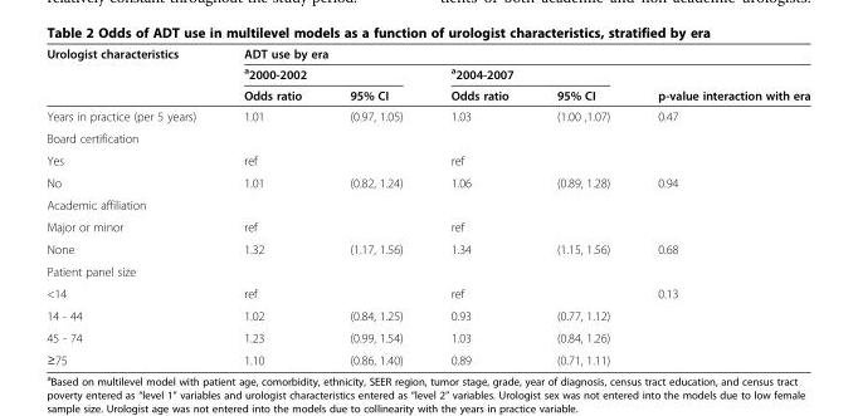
<table><thead><tr><td rowspan="3">Urologist characteristics</td><td colspan="5">ADT use by era</td></tr><tr><td colspan="2"><sup>a</sup>2000-2002</td><td colspan="2"><sup>a</sup>2004-2007</td><td rowspan="2">p-value interaction with era</td></tr><tr><td>Odds ratio</td><td>95% CI</td><td>Odds ratio</td><td>95% CI</td></tr></thead><tbody><tr><td>Years in practice (per 5 years)</td><td>1.01</td><td>(0.97, 1.05)</td><td>1.03</td><td>(1.00 ,1.07)</td><td>0.47</td></tr><tr><td colspan="6">Board certification</td></tr><tr><td>Yes</td><td>ref</td><td></td><td>ref</td><td></td><td></td></tr><tr><td>No</td><td>1.01</td><td>(0.82, 1.24)</td><td>1.06</td><td>(0.89, 1.28)</td><td>0.94</td></tr><tr><td colspan="6">Academic affiliation</td></tr><tr><td>Major or minor</td><td>ref</td><td></td><td>ref</td><td></td><td></td></tr><tr><td>None</td><td>1.32</td><td>(1.17, 1.56)</td><td>1.34</td><td>(1.15, 1.56)</td><td>0.68</td></tr><tr><td colspan="6">Patient panel size</td></tr><tr><td>&lt;14</td><td>ref</td><td></td><td>ref</td><td></td><td>0.13</td></tr><tr><td>14 - 44</td><td>1.02</td><td>(0.84, 1.25)</td><td>0.93</td><td>(0.77, 1.12)</td><td></td></tr><tr><td>45 - 74</td><td>1.23</td><td>(0.99, 1.54)</td><td>1.03</td><td>(0.84, 1.26)</td><td></td></tr><tr><td>≥75</td><td>1.10</td><td>(0.86, 1.40)</td><td>0.89</td><td>(0.71, 1.11)</td><td></td></tr></tbody></table>